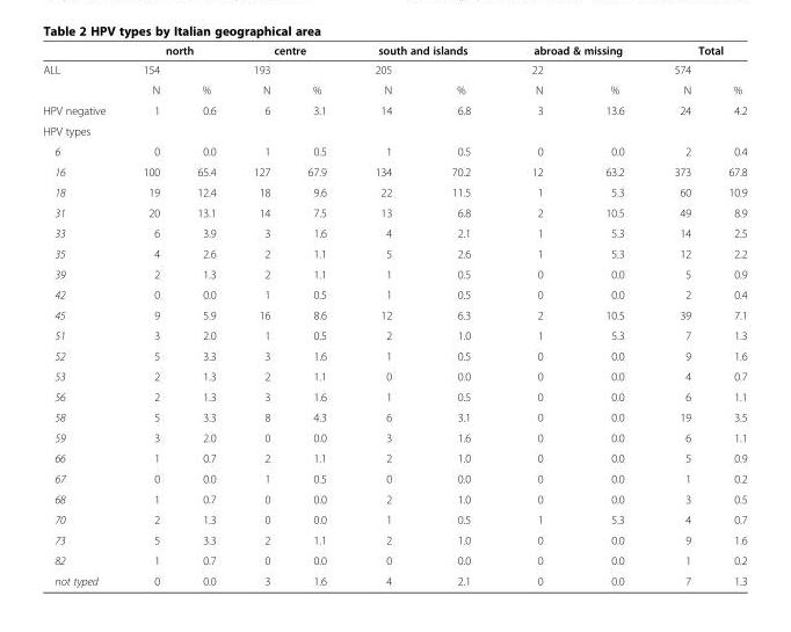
<table><thead><tr><td rowspan="2">ALL</td><td colspan="2">north</td><td colspan="2">centre</td><td colspan="2">south and islands</td><td colspan="2">abroad &amp; missing</td><td colspan="2">Total</td></tr><tr><td>154</td><td></td><td>193</td><td></td><td>205</td><td></td><td>22</td><td></td><td>574</td><td></td></tr></thead><tbody><tr><td></td><td>N</td><td>%</td><td>N</td><td>%</td><td>N</td><td>%</td><td>N</td><td>%</td><td>N</td><td>%</td></tr><tr><td>HPV negative</td><td>1</td><td>0.6</td><td>6</td><td>3.1</td><td>14</td><td>6.8</td><td>3</td><td>13.6</td><td>24</td><td>4.2</td></tr><tr><td colspan="11">HPV types</td></tr><tr><td>6</td><td>0</td><td>0.0</td><td>1</td><td>0.5</td><td>1</td><td>0.5</td><td>0</td><td>0.0</td><td>2</td><td>0.4</td></tr><tr><td>16</td><td>100</td><td>65.4</td><td>127</td><td>67.9</td><td>134</td><td>70.2</td><td>12</td><td>63.2</td><td>373</td><td>67.8</td></tr><tr><td>18</td><td>19</td><td>12.4</td><td>18</td><td>9.6</td><td>22</td><td>11.5</td><td>1</td><td>5.3</td><td>60</td><td>10.9</td></tr><tr><td>31</td><td>20</td><td>13.1</td><td>14</td><td>7.5</td><td>13</td><td>6.8</td><td>2</td><td>10.5</td><td>49</td><td>8.9</td></tr><tr><td>33</td><td>6</td><td>3.9</td><td>3</td><td>1.6</td><td>4</td><td>2.1</td><td>1</td><td>5.3</td><td>14</td><td>2.5</td></tr><tr><td>35</td><td>4</td><td>2.6</td><td>2</td><td>1.1</td><td>5</td><td>2.6</td><td>1</td><td>5.3</td><td>12</td><td>2.2</td></tr><tr><td>39</td><td>2</td><td>1.3</td><td>2</td><td>1.1</td><td>1</td><td>0.5</td><td>0</td><td>0.0</td><td>5</td><td>0.9</td></tr><tr><td>42</td><td>0</td><td>0.0</td><td>1</td><td>0.5</td><td>1</td><td>0.5</td><td>0</td><td>0.0</td><td>2</td><td>0.4</td></tr><tr><td>45</td><td>9</td><td>5.9</td><td>16</td><td>8.6</td><td>12</td><td>6.3</td><td>2</td><td>10.5</td><td>39</td><td>7.1</td></tr><tr><td>51</td><td>3</td><td>2.0</td><td>1</td><td>0.5</td><td>2</td><td>1.0</td><td>1</td><td>5.3</td><td>7</td><td>1.3</td></tr><tr><td>52</td><td>5</td><td>3.3</td><td>3</td><td>1.6</td><td>1</td><td>0.5</td><td>0</td><td>0.0</td><td>9</td><td>1.6</td></tr><tr><td>53</td><td>2</td><td>1.3</td><td>2</td><td>1.1</td><td>0</td><td>0.0</td><td>0</td><td>0.0</td><td>4</td><td>0.7</td></tr><tr><td>56</td><td>2</td><td>1.3</td><td>3</td><td>1.6</td><td>1</td><td>0.5</td><td>0</td><td>0.0</td><td>6</td><td>1.1</td></tr><tr><td>58</td><td>5</td><td>3.3</td><td>8</td><td>4.3</td><td>6</td><td>3.1</td><td>0</td><td>0.0</td><td>19</td><td>3.5</td></tr><tr><td>59</td><td>3</td><td>2.0</td><td>0</td><td>0.0</td><td>3</td><td>1.6</td><td>0</td><td>0.0</td><td>6</td><td>1.1</td></tr><tr><td>66</td><td>1</td><td>0.7</td><td>2</td><td>1.1</td><td>2</td><td>1.0</td><td>0</td><td>0.0</td><td>5</td><td>0.9</td></tr><tr><td>67</td><td>0</td><td>0.0</td><td>1</td><td>0.5</td><td>0</td><td>0.0</td><td>0</td><td>0.0</td><td>1</td><td>0.2</td></tr><tr><td>68</td><td>1</td><td>0.7</td><td>0</td><td>0.0</td><td>2</td><td>1.0</td><td>0</td><td>0.0</td><td>3</td><td>0.5</td></tr><tr><td>70</td><td>2</td><td>1.3</td><td>0</td><td>0.0</td><td>1</td><td>0.5</td><td>1</td><td>5.3</td><td>4</td><td>0.7</td></tr><tr><td>73</td><td>5</td><td>3.3</td><td>2</td><td>1.1</td><td>2</td><td>1.0</td><td>0</td><td>0.0</td><td>9</td><td>1.6</td></tr><tr><td>82</td><td>1</td><td>0.7</td><td>0</td><td>0.0</td><td>0</td><td>0.0</td><td>0</td><td>0.0</td><td>1</td><td>0.2</td></tr><tr><td>not typed</td><td>0</td><td>0.0</td><td>3</td><td>1.6</td><td>4</td><td>2.1</td><td>0</td><td>0.0</td><td>7</td><td>1.3</td></tr></tbody></table>